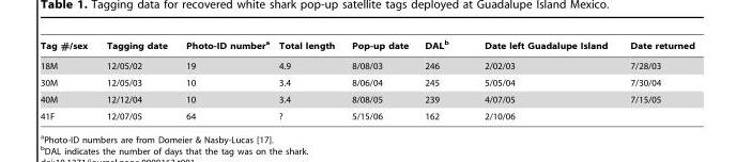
<table><thead><tr><td>Tag #/sex</td><td>Tagging date</td><td>Photo-ID number<sup>a</sup></td><td>Total length</td><td>Pop-up date</td><td>DAL<sup>b</sup></td><td>Date left Guadalupe Island</td><td>Date returned</td></tr></thead><tbody><tr><td>18M</td><td>12/05/02</td><td>19</td><td>4.9</td><td>8/08/03</td><td>246</td><td>2/02/03</td><td>7/28/03</td></tr><tr><td>30M</td><td>12/05/03</td><td>10</td><td>3.4</td><td>8/06/04</td><td>245</td><td>5/05/04</td><td>7/30/04</td></tr><tr><td>40M</td><td>12/12/04</td><td>10</td><td>3.4</td><td>8/08/05</td><td>239</td><td>4/07/05</td><td>7/15/05</td></tr><tr><td>41F</td><td>12/07/05</td><td>64</td><td>?</td><td>5/15/06</td><td>162</td><td>2/10/06</td><td></td></tr></tbody></table>